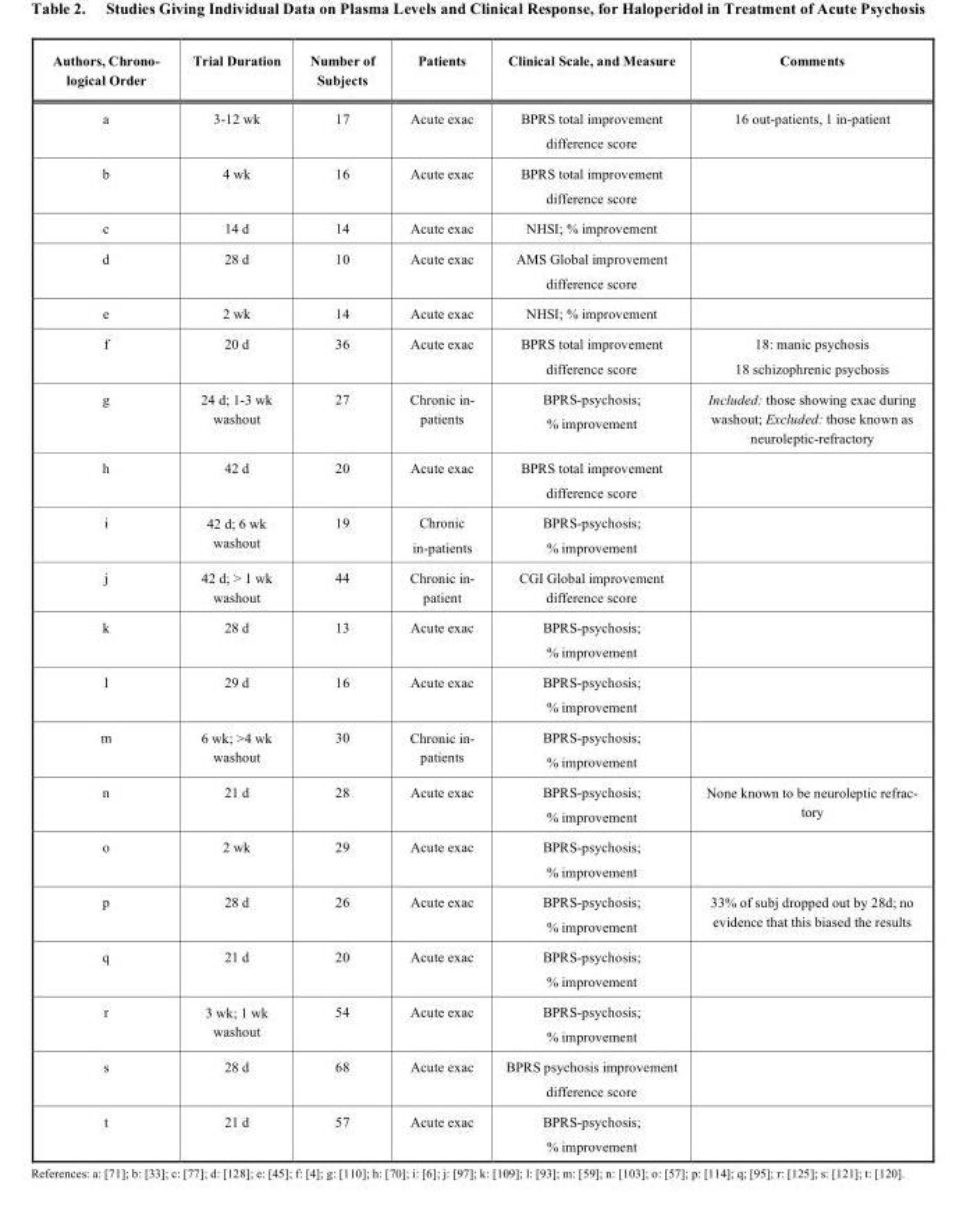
<table><thead><tr><td>Authors, Chrono- logical Order</td><td>Trial Duration</td><td>Number of Subjects</td><td>Patients</td><td>Clinical Scale, and Measure</td><td>Comments</td></tr></thead><tbody><tr><td>a</td><td>3-12 wk</td><td>17</td><td>Acute exac</td><td>BPRS total improvement difference score</td><td>16 out-patients, 1 in-patient</td></tr><tr><td>b</td><td>4 wk</td><td>16</td><td>Acute exac</td><td>BPRS total improvement difference score</td><td></td></tr><tr><td>c</td><td>14 d</td><td>14</td><td>Acute exac</td><td>NHSI; % improvement</td><td></td></tr><tr><td>d</td><td>28 d</td><td>10</td><td>Acute exac</td><td>AMS Global improvement difference score</td><td></td></tr><tr><td>e</td><td>2 wk</td><td>14</td><td>Acute exac</td><td>NHSI; % improvement</td><td></td></tr><tr><td>f</td><td>20 d</td><td>36</td><td>Acute exac</td><td>BPRS total improvement difference score</td><td>18: manic psychosis 18 schizophrenic psychosis</td></tr><tr><td>g</td><td>24 d; 1-3 wk washout</td><td>27</td><td>Chronic in- patients</td><td>BPRS-psychosis; % improvement</td><td>Included: those showing exac during washout; Excluded: those known as neuroleptic-refractory</td></tr><tr><td>h</td><td>42 d</td><td>20</td><td>Acute exac</td><td>BPRS total improvement difference score</td><td></td></tr><tr><td>i</td><td>42 d; 6 wk washout</td><td>19</td><td>Chronic in-patients</td><td>BPRS-psychosis; % improvement</td><td></td></tr><tr><td>j</td><td>42 d; &gt; 1 wk washout</td><td>44</td><td>Chronic in- patient</td><td>CGI Global improvement difference score</td><td></td></tr><tr><td>k</td><td>28 d</td><td>13</td><td>Acute exac</td><td>BPRS-psychosis; % improvement</td><td></td></tr><tr><td>l</td><td>29 d</td><td>16</td><td>Acute exac</td><td>BPRS-psychosis; % improvement</td><td></td></tr><tr><td>m</td><td>6 wk; &gt;4 wk washout</td><td>30</td><td>Chronic in- patients</td><td>BPRS-psychosis; % improvement</td><td></td></tr><tr><td>n</td><td>21 d</td><td>28</td><td>Acute exac</td><td>BPRS-psychosis; % improvement</td><td>None known to be neuroleptic refrac- tory</td></tr><tr><td>o</td><td>2 wk</td><td>29</td><td>Acute exac</td><td>BPRS-psychosis; % improvement</td><td></td></tr><tr><td>p</td><td>28 d</td><td>26</td><td>Acute exac</td><td>BPRS-psychosis; % improvement</td><td>33% of subj dropped out by 28d; no evidence that this biased the results</td></tr><tr><td>q</td><td>21 d</td><td>20</td><td>Acute exac</td><td>BPRS-psychosis; % improvement</td><td></td></tr><tr><td>r</td><td>3 wk; 1 wk washout</td><td>54</td><td>Acute exac</td><td>BPRS-psychosis; % improvement</td><td></td></tr><tr><td>s</td><td>28 d</td><td>68</td><td>Acute exac</td><td>BPRS psychosis improvement difference score</td><td></td></tr><tr><td>t</td><td>21 d</td><td>57</td><td>Acute exac</td><td>BPRS-psychosis; % improvement</td><td></td></tr></tbody></table>